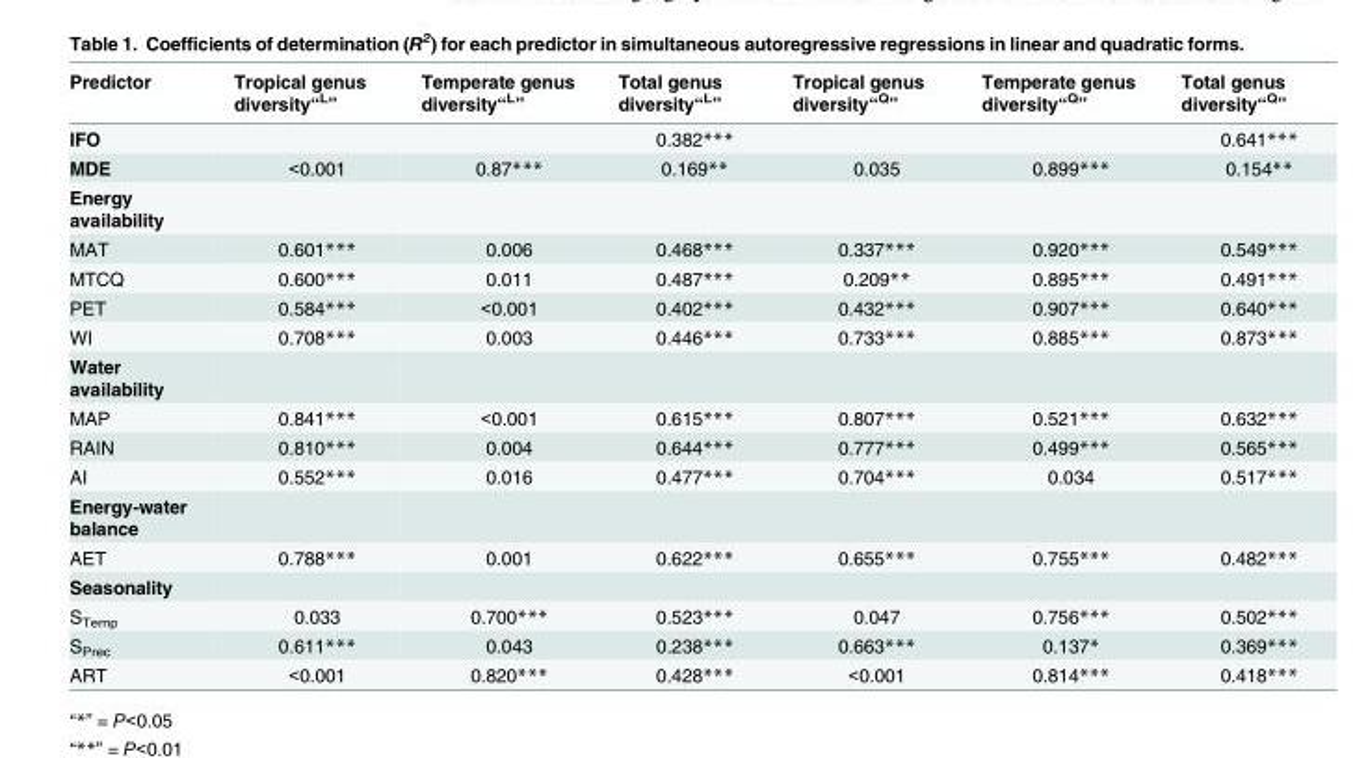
<table><thead><tr><td>Predictor</td><td>Tropical genus diversity“<sup>L</sup>”</td><td>Temperate genus diversity“<sup>L</sup>”</td><td>Total genus diversity“<sup>L</sup>”</td><td>Tropical genus diversity“<sup>Q</sup>”</td><td>Temperate genus diversity“<sup>Q</sup>”</td><td>Total genus diversity“<sup>Q</sup>”</td></tr></thead><tbody><tr><td>IFO</td><td></td><td></td><td>0.382***</td><td></td><td></td><td>0.641***</td></tr><tr><td>MDE</td><td>&lt;0.001</td><td>0.87***</td><td>0.169**</td><td>0.035</td><td>0.899***</td><td>0.154**</td></tr><tr><td colspan="7">Energy availability</td></tr><tr><td>MAT</td><td>0.601***</td><td>0.006</td><td>0.468***</td><td>0.337***</td><td>0.920***</td><td>0.549***</td></tr><tr><td>MTCQ</td><td>0.600***</td><td>0.011</td><td>0.487***</td><td>0.209**</td><td>0.895***</td><td>0.491***</td></tr><tr><td>PET</td><td>0.584***</td><td>&lt;0.001</td><td>0.402***</td><td>0.432***</td><td>0.907***</td><td>0.640***</td></tr><tr><td>WI</td><td>0.708***</td><td>0.003</td><td>0.446***</td><td>0.733***</td><td>0.885***</td><td>0.873***</td></tr><tr><td colspan="7">Water availability</td></tr><tr><td>MAP</td><td>0.841***</td><td>&lt;0.001</td><td>0.615***</td><td>0.807***</td><td>0.521***</td><td>0.632***</td></tr><tr><td>RAIN</td><td>0.810***</td><td>0.004</td><td>0.644***</td><td>0.777***</td><td>0.499***</td><td>0.565***</td></tr><tr><td>AI</td><td>0.552***</td><td>0.016</td><td>0.477***</td><td>0.704***</td><td>0.034</td><td>0.517***</td></tr><tr><td colspan="7">Energy-water balance</td></tr><tr><td>AET</td><td>0.788***</td><td>0.001</td><td>0.622***</td><td>0.655***</td><td>0.755***</td><td>0.482***</td></tr><tr><td colspan="7">Seasonality</td></tr><tr><td>S<sub>Temp</sub></td><td>0.033</td><td>0.700***</td><td>0.523***</td><td>0.047</td><td>0.756***</td><td>0.502***</td></tr><tr><td>S<sub>Prec</sub></td><td>0.611***</td><td>0.043</td><td>0.238***</td><td>0.663***</td><td>0.137*</td><td>0.369***</td></tr><tr><td>ART</td><td>&lt;0.001</td><td>0.820***</td><td>0.428***</td><td>&lt;0.001</td><td>0.814***</td><td>0.418***</td></tr></tbody></table>